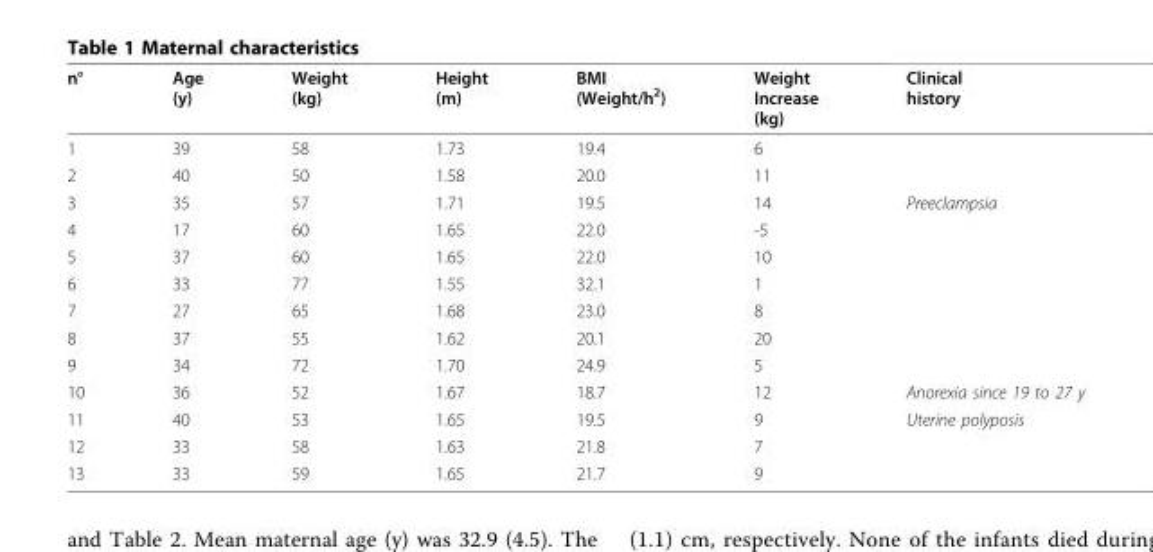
<table><thead><tr><td>n°</td><td>Age (y)</td><td>Weight (kg)</td><td>Height (m)</td><td>BMI (Weight/h<sup>2</sup>)</td><td>Weight Increase (kg)</td><td>Clinical history</td></tr></thead><tbody><tr><td>1</td><td>39</td><td>58</td><td>1.73</td><td>19.4</td><td>6</td><td></td></tr><tr><td>2</td><td>40</td><td>50</td><td>1.58</td><td>20.0</td><td>11</td><td></td></tr><tr><td>3</td><td>35</td><td>57</td><td>1.71</td><td>19.5</td><td>14</td><td>Preeclampsia</td></tr><tr><td>4</td><td>17</td><td>60</td><td>1.65</td><td>22.0</td><td>-5</td><td></td></tr><tr><td>5</td><td>37</td><td>60</td><td>1.65</td><td>22.0</td><td>10</td><td></td></tr><tr><td>6</td><td>33</td><td>77</td><td>1.55</td><td>32.1</td><td>1</td><td></td></tr><tr><td>7</td><td>27</td><td>65</td><td>1.68</td><td>23.0</td><td>8</td><td></td></tr><tr><td>8</td><td>37</td><td>55</td><td>1.62</td><td>20.1</td><td>20</td><td></td></tr><tr><td>9</td><td>34</td><td>72</td><td>1.70</td><td>24.9</td><td>5</td><td></td></tr><tr><td>10</td><td>36</td><td>52</td><td>1.67</td><td>18.7</td><td>12</td><td>Anorexia since 19 to 27 y</td></tr><tr><td>11</td><td>40</td><td>53</td><td>1.65</td><td>19.5</td><td>9</td><td>Uterine polyposis</td></tr><tr><td>12</td><td>33</td><td>58</td><td>1.63</td><td>21.8</td><td>7</td><td></td></tr><tr><td>13</td><td>33</td><td>59</td><td>1.65</td><td>21.7</td><td>9</td><td></td></tr></tbody></table>